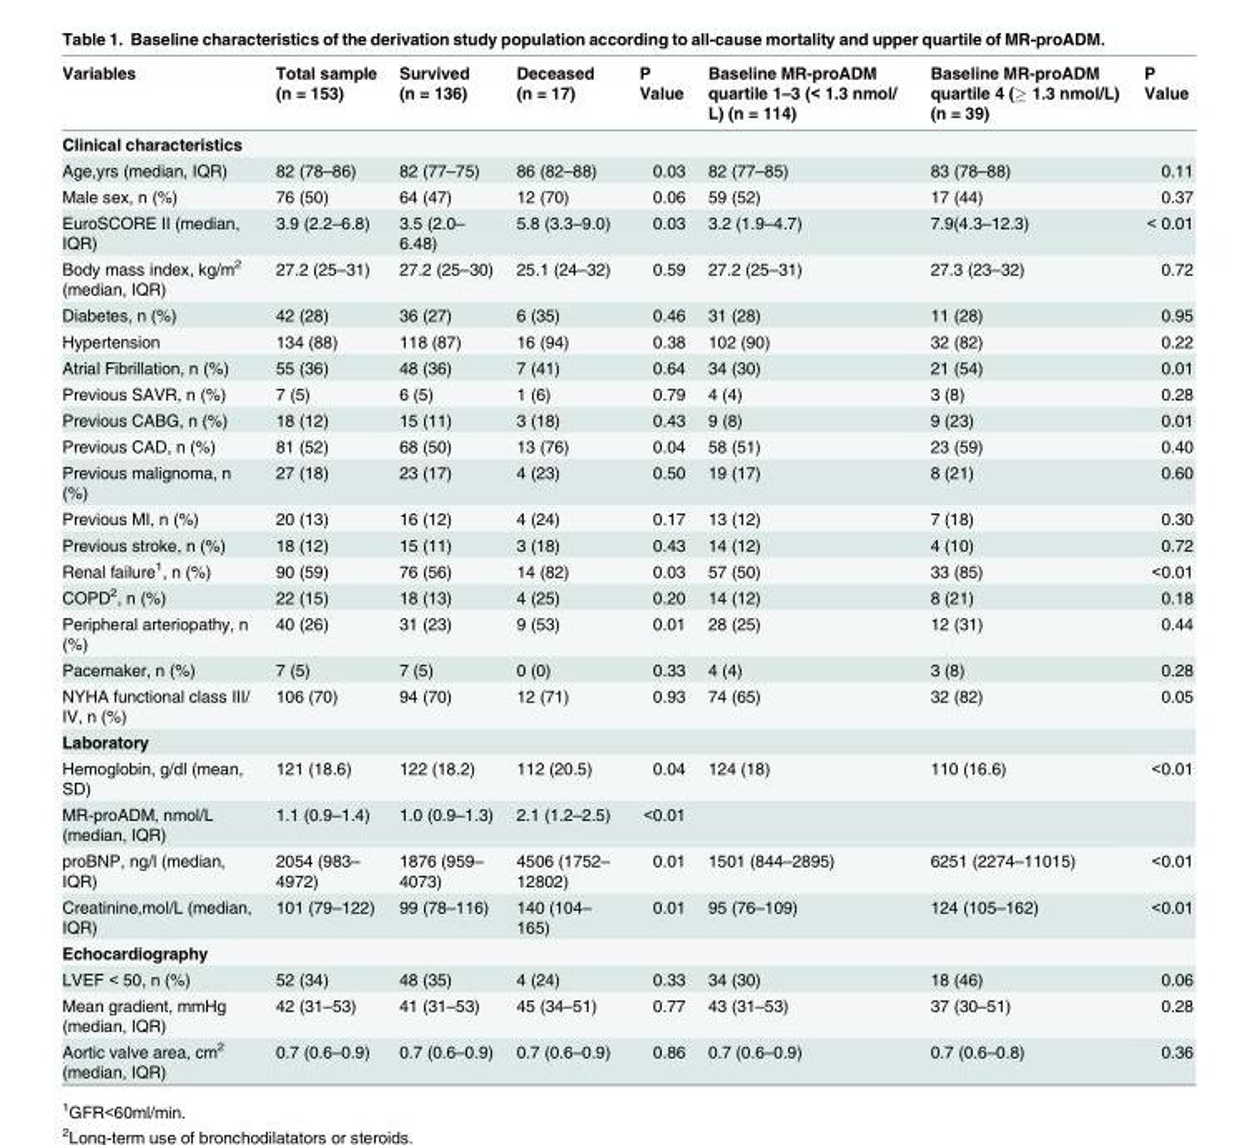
<table><thead><tr><td>Variables</td><td>Total sample (n = 153)</td><td>Survived (n = 136)</td><td>Deceased (n = 17)</td><td>P Value</td><td>Baseline MR-proADM quartile 1–3 (&lt; 1.3 nmol/ L) (n = 114)</td><td>Baseline MR-proADM quartile 4 (≥ 1.3 nmol/L) (n = 39)</td><td>P Value</td></tr></thead><tbody><tr><td colspan="8">Clinical characteristics</td></tr><tr><td>Age,yrs (median, IQR)</td><td>82 (78–86)</td><td>82 (77–75)</td><td>86 (82–88)</td><td>0.03</td><td>82 (77–85)</td><td>83 (78–88)</td><td>0.11</td></tr><tr><td>Male sex, n (%)</td><td>76 (50)</td><td>64 (47)</td><td>12 (70)</td><td>0.06</td><td>59 (52)</td><td>17 (44)</td><td>0.37</td></tr><tr><td>EuroSCORE II (median, IQR)</td><td>3.9 (2.2–6.8)</td><td>3.5 (2.0– 6.48)</td><td>5.8 (3.3–9.0)</td><td>0.03</td><td>3.2 (1.9–4.7)</td><td>7.9(4.3–12.3)</td><td>&lt; 0.01</td></tr><tr><td>Body mass index, kg/m<sup>2</sup> (median, IQR)</td><td>27.2 (25–31)</td><td>27.2 (25–30)</td><td>25.1 (24–32)</td><td>0.59</td><td>27.2 (25–31)</td><td>27.3 (23–32)</td><td>0.72</td></tr><tr><td>Diabetes, n (%)</td><td>42 (28)</td><td>36 (27)</td><td>6 (35)</td><td>0.46</td><td>31 (28)</td><td>11 (28)</td><td>0.95</td></tr><tr><td>Hypertension</td><td>134 (88)</td><td>118 (87)</td><td>16 (94)</td><td>0.38</td><td>102 (90)</td><td>32 (82)</td><td>0.22</td></tr><tr><td>Atrial Fibrillation, n (%)</td><td>55 (36)</td><td>48 (36)</td><td>7 (41)</td><td>0.64</td><td>34 (30)</td><td>21 (54)</td><td>0.01</td></tr><tr><td>Previous SAVR, n (%)</td><td>7 (5)</td><td>6 (5)</td><td>1 (6)</td><td>0.79</td><td>4 (4)</td><td>3 (8)</td><td>0.28</td></tr><tr><td>Previous CABG, n (%)</td><td>18 (12)</td><td>15 (11)</td><td>3 (18)</td><td>0.43</td><td>9 (8)</td><td>9 (23)</td><td>0.01</td></tr><tr><td>Previous CAD, n (%)</td><td>81 (52)</td><td>68 (50)</td><td>13 (76)</td><td>0.04</td><td>58 (51)</td><td>23 (59)</td><td>0.40</td></tr><tr><td>Previous malignoma, n (%)</td><td>27 (18)</td><td>23 (17)</td><td>4 (23)</td><td>0.50</td><td>19 (17)</td><td>8 (21)</td><td>0.60</td></tr><tr><td>Previous MI, n (%)</td><td>20 (13)</td><td>16 (12)</td><td>4 (24)</td><td>0.17</td><td>13 (12)</td><td>7 (18)</td><td>0.30</td></tr><tr><td>Previous stroke, n (%)</td><td>18 (12)</td><td>15 (11)</td><td>3 (18)</td><td>0.43</td><td>14 (12)</td><td>4 (10)</td><td>0.72</td></tr><tr><td>Renal failure<sup>1</sup>, n (%)</td><td>90 (59)</td><td>76 (56)</td><td>14 (82)</td><td>0.03</td><td>57 (50)</td><td>33 (85)</td><td>&lt;0.01</td></tr><tr><td>COPD<sup>2</sup>, n (%)</td><td>22 (15)</td><td>18 (13)</td><td>4 (25)</td><td>0.20</td><td>14 (12)</td><td>8 (21)</td><td>0.18</td></tr><tr><td>Peripheral arteriopathy, n (%)</td><td>40 (26)</td><td>31 (23)</td><td>9 (53)</td><td>0.01</td><td>28 (25)</td><td>12 (31)</td><td>0.44</td></tr><tr><td>Pacemaker, n (%)</td><td>7 (5)</td><td>7 (5)</td><td>0 (0)</td><td>0.33</td><td>4 (4)</td><td>3 (8)</td><td>0.28</td></tr><tr><td>NYHA functional class III/ IV, n (%)</td><td>106 (70)</td><td>94 (70)</td><td>12 (71)</td><td>0.93</td><td>74 (65)</td><td>32 (82)</td><td>0.05</td></tr><tr><td colspan="8">Laboratory</td></tr><tr><td>Hemoglobin, g/dl (mean, SD)</td><td>121 (18.6)</td><td>122 (18.2)</td><td>112 (20.5)</td><td>0.04</td><td>124 (18)</td><td>110 (16.6)</td><td>&lt;0.01</td></tr><tr><td>MR-proADM, nmol/L (median, IQR)</td><td>1.1 (0.9–1.4)</td><td>1.0 (0.9–1.3)</td><td>2.1 (1.2–2.5)</td><td>&lt;0.01</td><td></td><td></td><td></td></tr><tr><td>proBNP, ng/l (median, IQR)</td><td>2054 (983– 4972)</td><td>1876 (959– 4073)</td><td>4506 (1752– 12802)</td><td>0.01</td><td>1501 (844–2895)</td><td>6251 (2274–11015)</td><td>&lt;0.01</td></tr><tr><td>Creatinine,mol/L (median, IQR)</td><td>101 (79–122)</td><td>99 (78–116)</td><td>140 (104– 165)</td><td>0.01</td><td>95 (76–109)</td><td>124 (105–162)</td><td>&lt;0.01</td></tr><tr><td colspan="8">Echocardiography</td></tr><tr><td>LVEF &lt; 50, n (%)</td><td>52 (34)</td><td>48 (35)</td><td>4 (24)</td><td>0.33</td><td>34 (30)</td><td>18 (46)</td><td>0.06</td></tr><tr><td>Mean gradient, mmHg (median, IQR)</td><td>42 (31–53)</td><td>41 (31–53)</td><td>45 (34–51)</td><td>0.77</td><td>43 (31–53)</td><td>37 (30–51)</td><td>0.28</td></tr><tr><td>Aortic valve area, cm<sup>2</sup> (median, IQR)</td><td>0.7 (0.6–0.9)</td><td>0.7 (0.6–0.9)</td><td>0.7 (0.6–0.9)</td><td>0.86</td><td>0.7 (0.6–0.9)</td><td>0.7 (0.6–0.8)</td><td>0.36</td></tr></tbody></table>